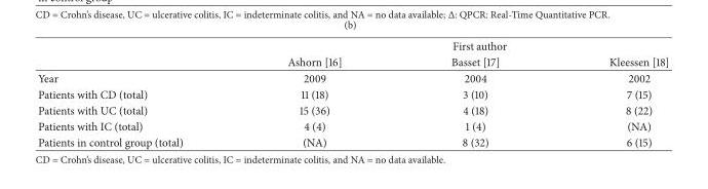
<table><thead><tr><td rowspan="2"></td><td colspan="3">First author</td></tr><tr><td>Ashorn [16]</td><td>Basset [17]</td><td>Kleessen [18]</td></tr></thead><tbody><tr><td>Year</td><td>2009</td><td>2004</td><td>2002</td></tr><tr><td>Patients with CD (total)</td><td>11 (18)</td><td>3 (10)</td><td>7 (15)</td></tr><tr><td>Patients with UC (total)</td><td>15 (36)</td><td>4 (18)</td><td>8 (22)</td></tr><tr><td>Patients with IC (total)</td><td>4 (4)</td><td>1 (4)</td><td>(NA)</td></tr><tr><td>Patients in control group (total)</td><td>(NA)</td><td>8 (32)</td><td>6 (15)</td></tr></tbody></table>